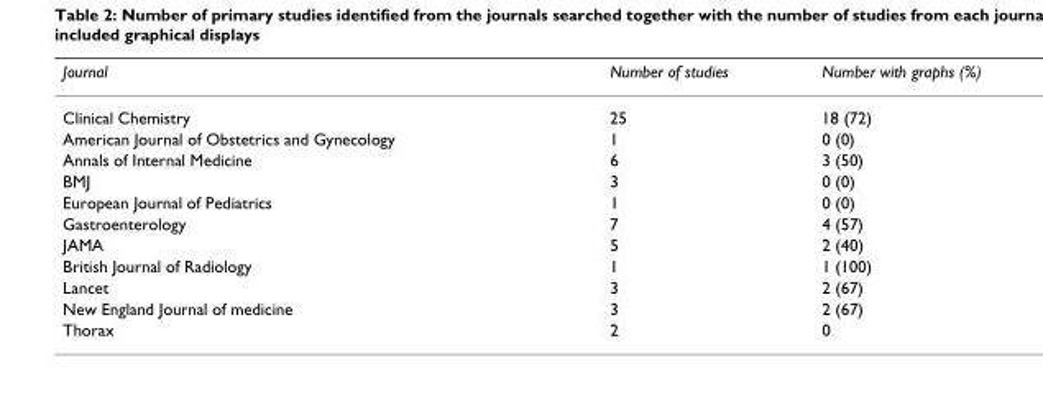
<table><thead><tr><td>Journal</td><td>Number of studies</td><td>Number with graphs (%)</td></tr></thead><tbody><tr><td>Clinical Chemistry</td><td>25</td><td>18 (72)</td></tr><tr><td>American Journal of Obstetrics and Gynecology</td><td>1</td><td>0 (0)</td></tr><tr><td>Annals of Internal Medicine</td><td>6</td><td>3 (50)</td></tr><tr><td>BMJ</td><td>3</td><td>0 (0)</td></tr><tr><td>European Journal of Pediatrics</td><td>1</td><td>0 (0)</td></tr><tr><td>Gastroenterology</td><td>7</td><td>4 (57)</td></tr><tr><td>JAMA</td><td>5</td><td>2 (40)</td></tr><tr><td>British Journal of Radiology</td><td>1</td><td>1 (100)</td></tr><tr><td>Lancet</td><td>3</td><td>2 (67)</td></tr><tr><td>New England Journal of medicine</td><td>3</td><td>2 (67)</td></tr><tr><td>Thorax</td><td>2</td><td>0</td></tr></tbody></table>